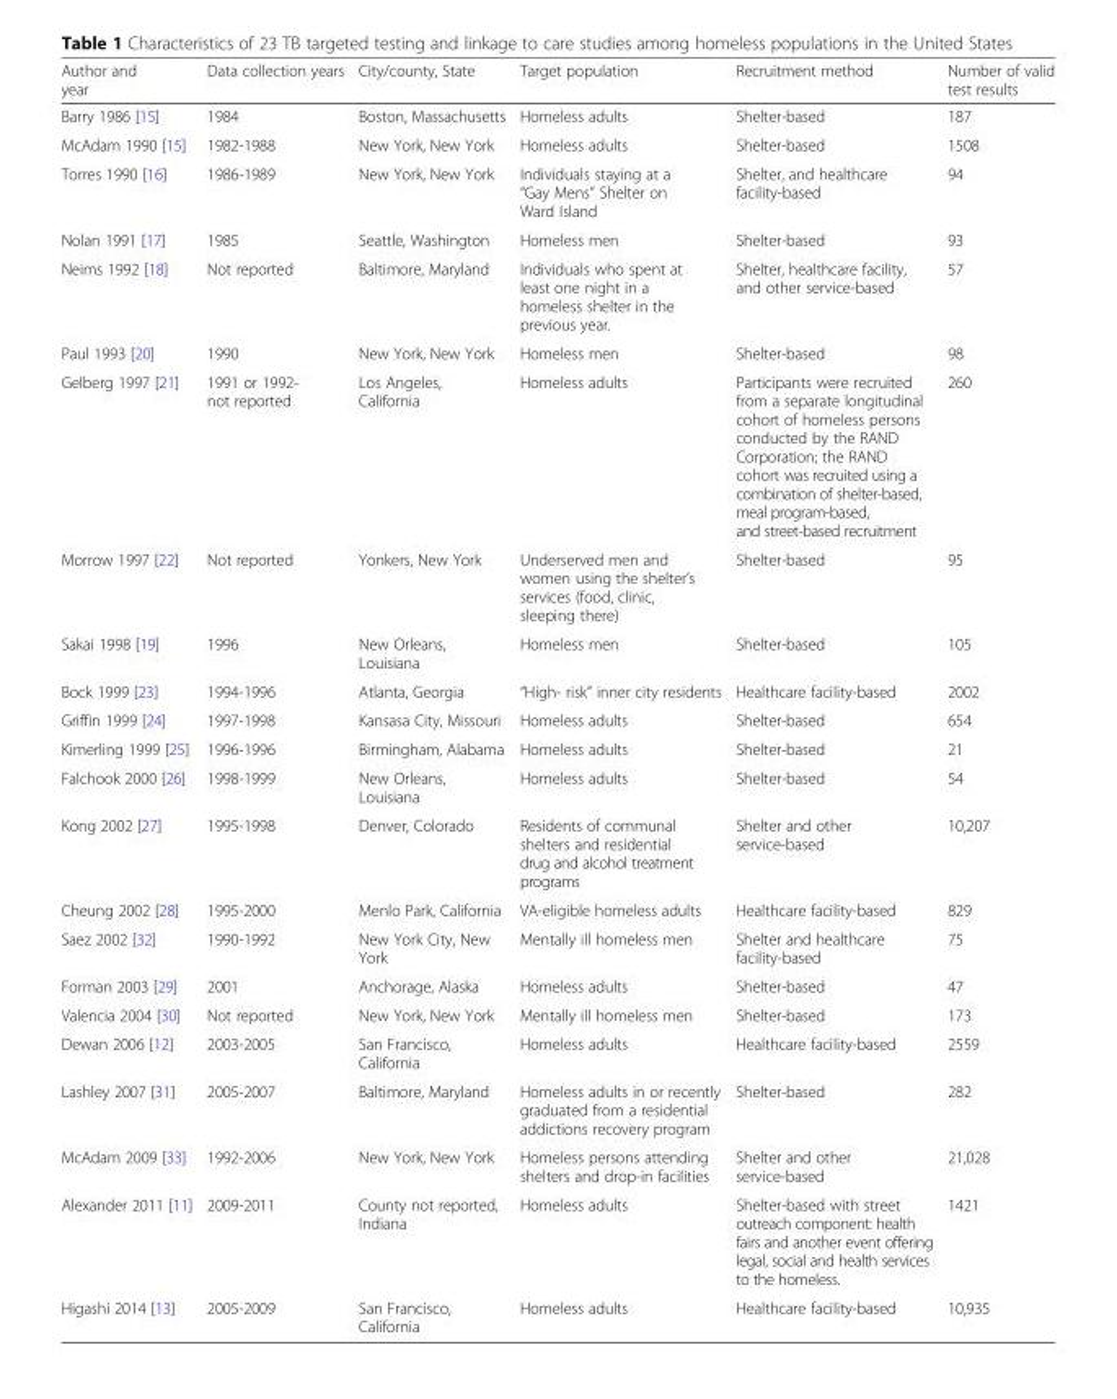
<table><thead><tr><td>Author and year</td><td>Data collection years</td><td>City/county, State</td><td>Target population</td><td>Recruitment method</td><td>Number of valid test results</td></tr></thead><tbody><tr><td>Barry 1986 [15]</td><td>1984</td><td>Boston, Massachusetts</td><td>Homeless adults</td><td>Shelter-based</td><td>187</td></tr><tr><td>McAdam 1990 [15]</td><td>1982-1988</td><td>New York, New York</td><td>Homeless adults</td><td>Shelter-based</td><td>1508</td></tr><tr><td>Torres 1990 [16]</td><td>1986-1989</td><td>New York, New York</td><td>Individuals staying at a “Gay Mens” Shelter on Ward Island</td><td>Shelter, and healthcare facility-based</td><td>94</td></tr><tr><td>Nolan 1991 [17]</td><td>1985</td><td>Seattle, Washington</td><td>Homeless men</td><td>Shelter-based</td><td>93</td></tr><tr><td>Neims 1992 [18]</td><td>Not reported</td><td>Baltimore, Maryland</td><td>Individuals who spent at least one night in a homeless shelter in the previous year.</td><td>Shelter, healthcare facility, and other service-based</td><td>57</td></tr><tr><td>Paul 1993 [20]</td><td>1990</td><td>New York, New York</td><td>Homeless men</td><td>Shelter-based</td><td>98</td></tr><tr><td>Gelberg 1997 [21]</td><td>1991 or 1992- not reported</td><td>Los Angeles, California</td><td>Homeless adults</td><td>Participants were recruited from a separate longitudinal cohort of homeless persons conducted by the RAND Corporation; the RAND cohort was recruited using a combination of shelter-based, meal program-based, and street-based recruitment</td><td>260</td></tr><tr><td>Morrow 1997 [22]</td><td>Not reported</td><td>Yonkers, New York</td><td>Underserved men and women using the shelter’s services (food, clinic, sleeping there)</td><td>Shelter-based</td><td>95</td></tr><tr><td>Sakai 1998 [19]</td><td>1996</td><td>New Orleans, Louisiana</td><td>Homeless men</td><td>Shelter-based</td><td>105</td></tr><tr><td>Bock 1999 [23]</td><td>1994-1996</td><td>Atlanta, Georgia</td><td>“High- risk” inner city residents</td><td>Healthcare facility-based</td><td>2002</td></tr><tr><td>Griffin 1999 [24]</td><td>1997-1998</td><td>Kansasa City, Missouri</td><td>Homeless adults</td><td>Shelter-based</td><td>654</td></tr><tr><td>Kimerling 1999 [25]</td><td>1996-1996</td><td>Birmingham, Alabama</td><td>Homeless adults</td><td>Shelter-based</td><td>21</td></tr><tr><td>Falchook 2000 [26]</td><td>1998-1999</td><td>New Orleans, Louisiana</td><td>Homeless adults</td><td>Shelter-based</td><td>54</td></tr><tr><td>Kong 2002 [27]</td><td>1995-1998</td><td>Denver, Colorado</td><td>Residents of communal shelters and residential drug and alcohol treatment programs</td><td>Shelter and other service-based</td><td>10,207</td></tr><tr><td>Cheung 2002 [28]</td><td>1995-2000</td><td>Menlo Park, California</td><td>VA-eligible homeless adults</td><td>Healthcare facility-based</td><td>829</td></tr><tr><td>Saez 2002 [32]</td><td>1990-1992</td><td>New York City, New York</td><td>Mentally ill homeless men</td><td>Shelter and healthcare facility-based</td><td>75</td></tr><tr><td>Forman 2003 [29]</td><td>2001</td><td>Anchorage, Alaska</td><td>Homeless adults</td><td>Shelter-based</td><td>47</td></tr><tr><td>Valencia 2004 [30]</td><td>Not reported</td><td>New York, New York</td><td>Mentally ill homeless men</td><td>Shelter-based</td><td>173</td></tr><tr><td>Dewan 2006 [12]</td><td>2003-2005</td><td>San Francisco, California</td><td>Homeless adults</td><td>Healthcare facility-based</td><td>2559</td></tr><tr><td>Lashley 2007 [31]</td><td>2005-2007</td><td>Baltimore, Maryland</td><td>Homeless adults in or recently graduated from a residential addictions recovery program</td><td>Shelter-based</td><td>282</td></tr><tr><td>McAdam 2009 [33]</td><td>1992-2006</td><td>New York, New York</td><td>Homeless persons attending shelters and drop-in facilities</td><td>Shelter and other service-based</td><td>21,028</td></tr><tr><td>Alexander 2011 [11]</td><td>2009-2011</td><td>County not reported, Indiana</td><td>Homeless adults</td><td>Shelter-based with street outreach component: health fairs and another event offering legal, social and health services to the homeless.</td><td>1421</td></tr><tr><td>Higashi 2014 [13]</td><td>2005-2009</td><td>San Francisco, California</td><td>Homeless adults</td><td>Healthcare facility-based</td><td>10,935</td></tr></tbody></table>